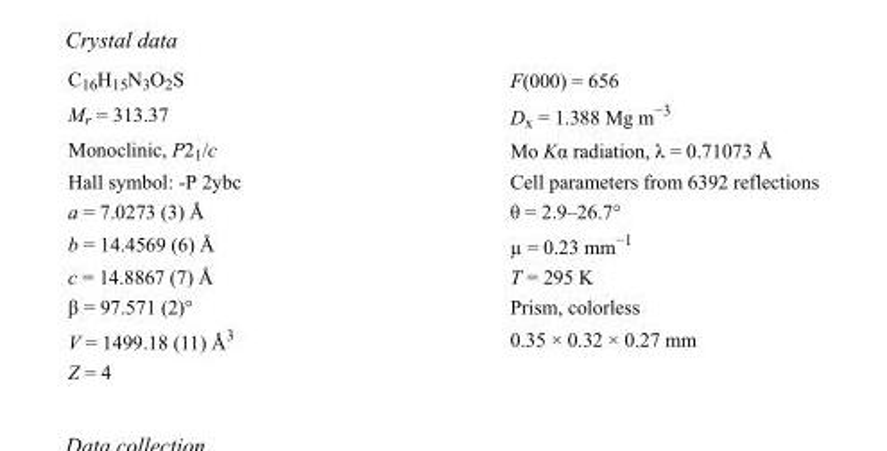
<table><tbody><tr><td>C<sub>16</sub>H<sub>15</sub>N<sub>3</sub>O<sub>2</sub>S</td><td>F(000) = 656</td></tr><tr><td>M<sub>r</sub> = 313.37</td><td>D<sub>x</sub> = 1.388 Mg m<sup>−3</sup></td></tr><tr><td>Monoclinic, P2<sub>1</sub>/c</td><td>Mo Kα radiation, λ = 0.71073 Å</td></tr><tr><td>Hall symbol: -P 2ybc</td><td>Cell parameters from 6392 reflections</td></tr><tr><td>a = 7.0273 (3) Å</td><td>θ = 2.9–26.7°</td></tr><tr><td>b = 14.4569 (6) Å</td><td>µ = 0.23 mm<sup>−1</sup></td></tr><tr><td>c = 14.8867 (7) Å</td><td>T = 295 K</td></tr><tr><td>β = 97.571 (2)°</td><td>Prism, colorless</td></tr><tr><td>V = 1499.18 (11) Å<sup>3</sup></td><td>0.35 × 0.32 × 0.27 mm</td></tr><tr><td>Z = 4</td><td></td></tr></tbody></table>